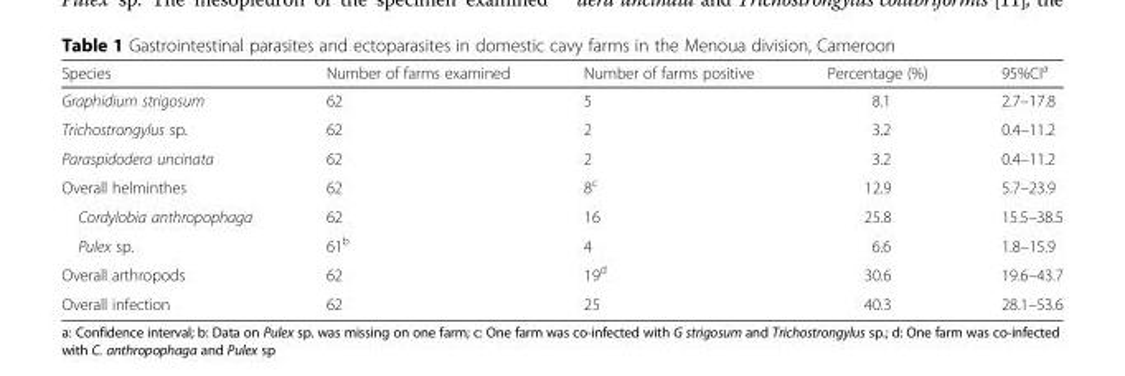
<table><thead><tr><td>Species</td><td>Number of farms examined</td><td>Number of farms positive</td><td>Percentage (%)</td><td>95%CI<sup>a</sup></td></tr></thead><tbody><tr><td>Graphidium strigosum</td><td>62</td><td>5</td><td>8.1</td><td>2.7–17.8</td></tr><tr><td>Trichostrongylus sp.</td><td>62</td><td>2</td><td>3.2</td><td>0.4–11.2</td></tr><tr><td>Paraspidodera uncinata</td><td>62</td><td>2</td><td>3.2</td><td>0.4–11.2</td></tr><tr><td>Overall helminthes</td><td>62</td><td>8<sup>c</sup></td><td>12.9</td><td>5.7–23.9</td></tr><tr><td>Cordylobia anthropophaga</td><td>62</td><td>16</td><td>25.8</td><td>15.5–38.5</td></tr><tr><td>Pulex sp.</td><td>61<sup>b</sup></td><td>4</td><td>6.6</td><td>1.8–15.9</td></tr><tr><td>Overall arthropods</td><td>62</td><td>19<sup>d</sup></td><td>30.6</td><td>19.6–43.7</td></tr><tr><td>Overall infection</td><td>62</td><td>25</td><td>40.3</td><td>28.1–53.6</td></tr></tbody></table>